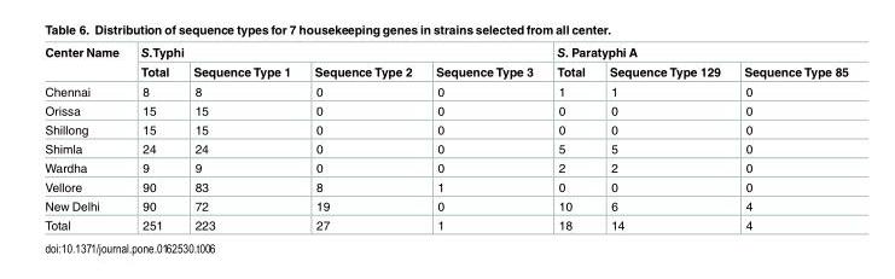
<table><thead><tr><td rowspan="2">Center Name</td><td colspan="4">S.Typhi</td><td colspan="3">S. Paratyphi A</td></tr><tr><td>Total</td><td>Sequence Type 1</td><td>Sequence Type 2</td><td>Sequence Type 3</td><td>Total</td><td>Sequence Type 129</td><td>Sequence Type 85</td></tr></thead><tbody><tr><td>Chennai</td><td>8</td><td>8</td><td>0</td><td>0</td><td>1</td><td>1</td><td>0</td></tr><tr><td>Orissa</td><td>15</td><td>15</td><td>0</td><td>0</td><td>0</td><td>0</td><td>0</td></tr><tr><td>Shillong</td><td>15</td><td>15</td><td>0</td><td>0</td><td>0</td><td>0</td><td>0</td></tr><tr><td>Shimla</td><td>24</td><td>24</td><td>0</td><td>0</td><td>5</td><td>5</td><td>0</td></tr><tr><td>Wardha</td><td>9</td><td>9</td><td>0</td><td>0</td><td>2</td><td>2</td><td>0</td></tr><tr><td>Vellore</td><td>90</td><td>83</td><td>8</td><td>1</td><td>0</td><td>0</td><td>0</td></tr><tr><td>New Delhi</td><td>90</td><td>72</td><td>19</td><td>0</td><td>10</td><td>6</td><td>4</td></tr><tr><td>Total</td><td>251</td><td>223</td><td>27</td><td>1</td><td>18</td><td>14</td><td>4</td></tr></tbody></table>